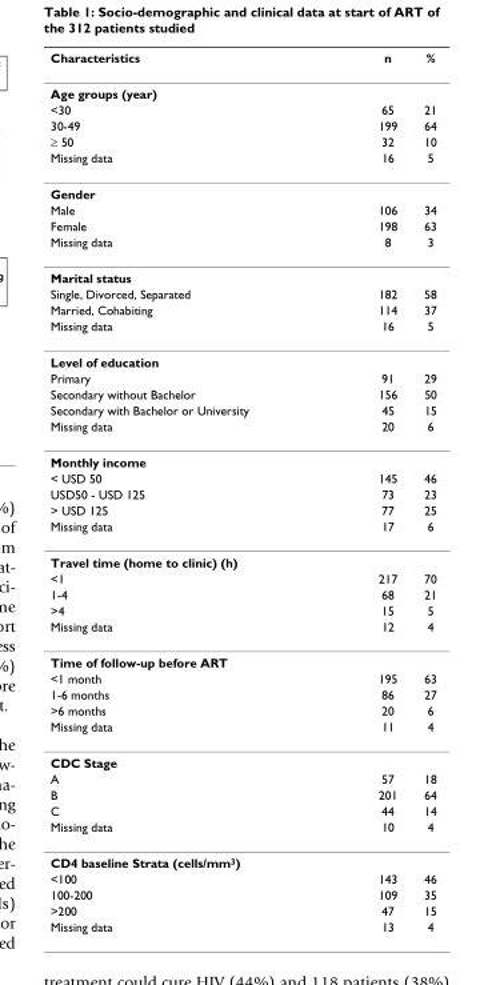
<table><thead><tr><td>Characteristics</td><td>n</td><td>%</td></tr></thead><tbody><tr><td colspan="3">Age groups (year)</td></tr><tr><td>&lt;30</td><td>65</td><td>21</td></tr><tr><td>30-49</td><td>199</td><td>64</td></tr><tr><td>≥ 50</td><td>32</td><td>10</td></tr><tr><td>Missing data</td><td>16</td><td>5</td></tr><tr><td colspan="3">Gender</td></tr><tr><td>Male</td><td>106</td><td>34</td></tr><tr><td>Female</td><td>198</td><td>63</td></tr><tr><td>Missing data</td><td>8</td><td>3</td></tr><tr><td colspan="3">Marital status</td></tr><tr><td>Single, Divorced, Separated</td><td>182</td><td>58</td></tr><tr><td>Married, Cohabiting</td><td>114</td><td>37</td></tr><tr><td>Missing data</td><td>16</td><td>5</td></tr><tr><td colspan="3">Level of education</td></tr><tr><td>Primary</td><td>91</td><td>29</td></tr><tr><td>Secondary without Bachelor</td><td>156</td><td>50</td></tr><tr><td>Secondary with Bachelor or University</td><td>45</td><td>15</td></tr><tr><td>Missing data</td><td>20</td><td>6</td></tr><tr><td colspan="3">Monthly income</td></tr><tr><td>&lt; USD 50</td><td>145</td><td>46</td></tr><tr><td>USD50 - USD 125</td><td>73</td><td>23</td></tr><tr><td>&gt; USD 125</td><td>77</td><td>25</td></tr><tr><td>Missing data</td><td>17</td><td>6</td></tr><tr><td colspan="3">Travel time (home to clinic) (h)</td></tr><tr><td>&lt;1</td><td>217</td><td>70</td></tr><tr><td>1-4</td><td>68</td><td>21</td></tr><tr><td>&gt;4</td><td>15</td><td>5</td></tr><tr><td>Missing data</td><td>12</td><td>4</td></tr><tr><td colspan="3">Time of follow-up before ART</td></tr><tr><td>&lt;1 month</td><td>195</td><td>63</td></tr><tr><td>1-6 months</td><td>86</td><td>27</td></tr><tr><td>&gt;6 months</td><td>20</td><td>6</td></tr><tr><td>Missing data</td><td>11</td><td>4</td></tr><tr><td colspan="3">CDC Stage</td></tr><tr><td>A</td><td>57</td><td>18</td></tr><tr><td>B</td><td>201</td><td>64</td></tr><tr><td>C</td><td>44</td><td>14</td></tr><tr><td>Missing data</td><td>10</td><td>4</td></tr><tr><td colspan="3">CD4 baseline Strata (cells/mm<sup>3</sup>)</td></tr><tr><td>&lt;100</td><td>143</td><td>46</td></tr><tr><td>100-200</td><td>109</td><td>35</td></tr><tr><td>&gt;200</td><td>47</td><td>15</td></tr><tr><td>Missing data</td><td>13</td><td>4</td></tr></tbody></table>